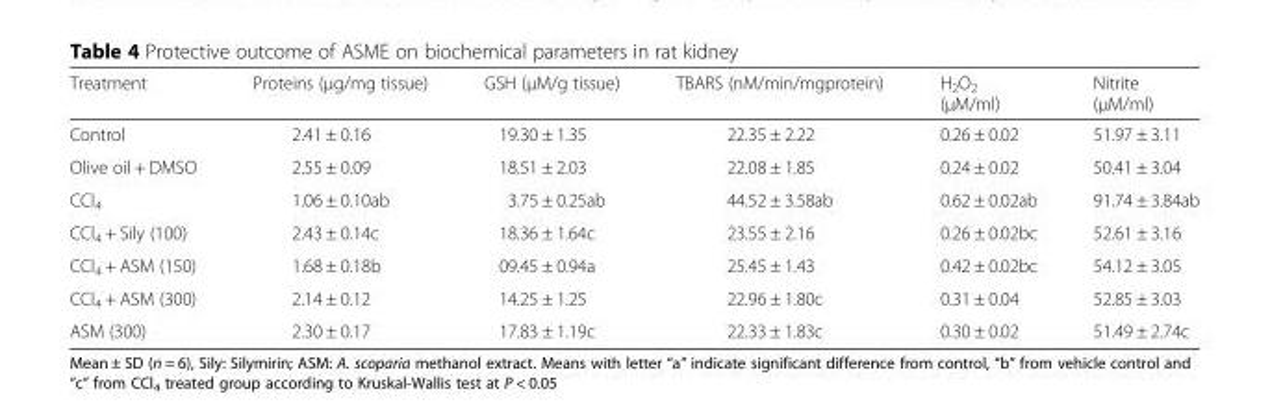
<table><thead><tr><td>Treatment</td><td>Proteins (μg/mg tissue)</td><td>GSH (μM/g tissue)</td><td>TBARS (nM/min/mgprotein)</td><td>H<sub>2</sub>O<sub>2</sub> (μM/ml)</td><td>Nitrite (μM/ml)</td></tr></thead><tbody><tr><td>Control</td><td>2.41 ± 0.16</td><td>19.30 ± 1.35</td><td>22.35 ± 2.22</td><td>0.26 ± 0.02</td><td>51.97 ± 3.11</td></tr><tr><td>Olive oil + DMSO</td><td>2.55 ± 0.09</td><td>18.51 ± 2.03</td><td>22.08 ± 1.85</td><td>0.24 ± 0.02</td><td>50.41 ± 3.04</td></tr><tr><td>CCl<sub>4</sub></td><td>1.06 ± 0.10ab</td><td>3.75 ± 0.25ab</td><td>44.52 ± 3.58ab</td><td>0.62 ± 0.02ab</td><td>91.74 ± 3.84ab</td></tr><tr><td>CCl<sub>4</sub> + Sily (100)</td><td>2.43 ± 0.14c</td><td>18.36 ± 1.64c</td><td>23.55 ± 2.16</td><td>0.26 ± 0.02bc</td><td>52.61 ± 3.16</td></tr><tr><td>CCl<sub>4</sub> + ASM (150)</td><td>1.68 ± 0.18b</td><td>09.45 ± 0.94a</td><td>25.45 ± 1.43</td><td>0.42 ± 0.02bc</td><td>54.12 ± 3.05</td></tr><tr><td>CCl<sub>4</sub> + ASM (300)</td><td>2.14 ± 0.12</td><td>14.25 ± 1.25</td><td>22.96 ± 1.80c</td><td>0.31 ± 0.04</td><td>52.85 ± 3.03</td></tr><tr><td>ASM (300)</td><td>2.30 ± 0.17</td><td>17.83 ± 1.19c</td><td>22.33 ± 1.83c</td><td>0.30 ± 0.02</td><td>51.49 ± 2.74c</td></tr></tbody></table>